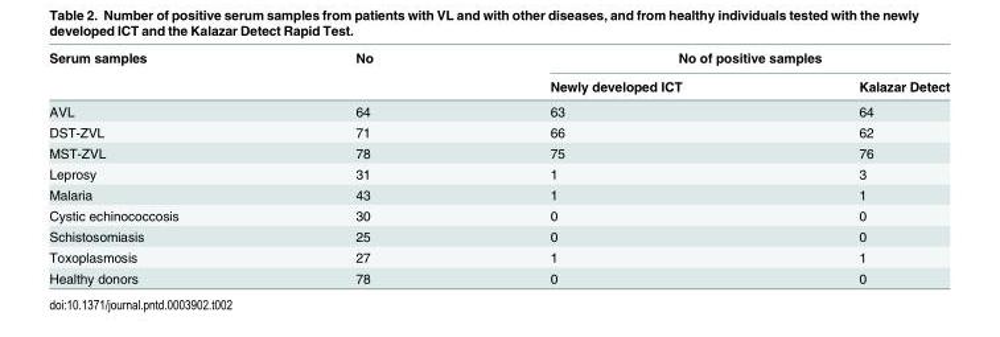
<table><thead><tr><td rowspan="2">Serum samples</td><td rowspan="2">No</td><td colspan="2">No of positive samples</td></tr><tr><td>Newly developed ICT</td><td>Kalazar Detect</td></tr></thead><tbody><tr><td>AVL</td><td>64</td><td>63</td><td>64</td></tr><tr><td>DST-ZVL</td><td>71</td><td>66</td><td>62</td></tr><tr><td>MST-ZVL</td><td>78</td><td>75</td><td>76</td></tr><tr><td>Leprosy</td><td>31</td><td>1</td><td>3</td></tr><tr><td>Malaria</td><td>43</td><td>1</td><td>1</td></tr><tr><td>Cystic echinococcosis</td><td>30</td><td>0</td><td>0</td></tr><tr><td>Schistosomiasis</td><td>25</td><td>0</td><td>0</td></tr><tr><td>Toxoplasmosis</td><td>27</td><td>1</td><td>1</td></tr><tr><td>Healthy donors</td><td>78</td><td>0</td><td>0</td></tr></tbody></table>